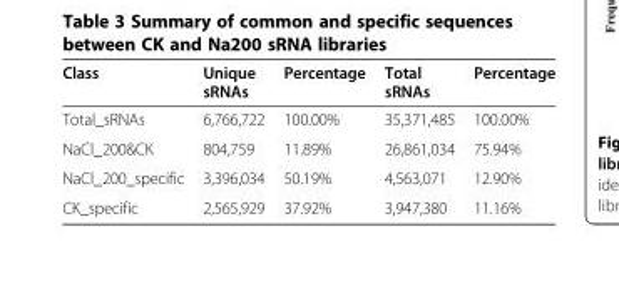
<table><thead><tr><td>Class</td><td>Unique sRNAs</td><td>Percentage</td><td>Total sRNAs</td><td>Percentage</td></tr></thead><tbody><tr><td>Total_sRNAs</td><td>6,766,722</td><td>100.00%</td><td>35,371,485</td><td>100.00%</td></tr><tr><td>NaCl_200&amp;CK</td><td>804,759</td><td>11.89%</td><td>26,861,034</td><td>75.94%</td></tr><tr><td>NaCl_200_specific</td><td>3,396,034</td><td>50.19%</td><td>4,563,071</td><td>12.90%</td></tr><tr><td>CK_specific</td><td>2,565,929</td><td>37.92%</td><td>3,947,380</td><td>11.16%</td></tr></tbody></table>